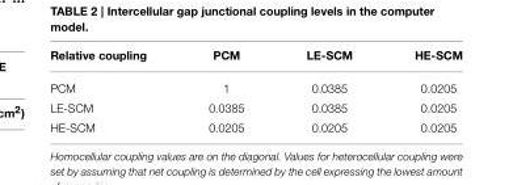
<table><thead><tr><td>Relative coupling</td><td>PCM</td><td>LE-SCM</td><td>HE-SCM</td></tr></thead><tbody><tr><td>PCM</td><td>1</td><td>0.0385</td><td>0.0205</td></tr><tr><td>LE-SCM</td><td>0.0385</td><td>0.0385</td><td>0.0205</td></tr><tr><td>HE-SCM</td><td>0.0205</td><td>0.0205</td><td>0.0205</td></tr></tbody></table>